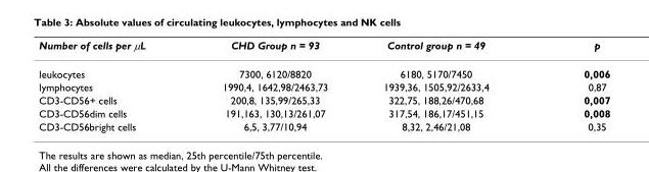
<table><thead><tr><td>Number of cells per μL</td><td>CHD Group n = 93</td><td>Control group n = 49</td><td>p</td></tr></thead><tbody><tr><td>leukocytes</td><td>7300, 6120/8820</td><td>6180, 5170/7450</td><td>0,006</td></tr><tr><td>lymphocytes</td><td>1990,4, 1642,98/2463,73</td><td>1939,36, 1505,92/2633,4</td><td>0,87</td></tr><tr><td>CD3-CD56+ cells</td><td>200,8, 135,99/265,33</td><td>322,75, 188,26/470,68</td><td>0,007</td></tr><tr><td>CD3-CD56dim cells</td><td>191,163, 130,13/261,07</td><td>317,54, 186,17/451,15</td><td>0,008</td></tr><tr><td>CD3-CD56bright cells</td><td>6,5, 3,77/10,94</td><td>8,32, 2,46/21,08</td><td>0,35</td></tr></tbody></table>